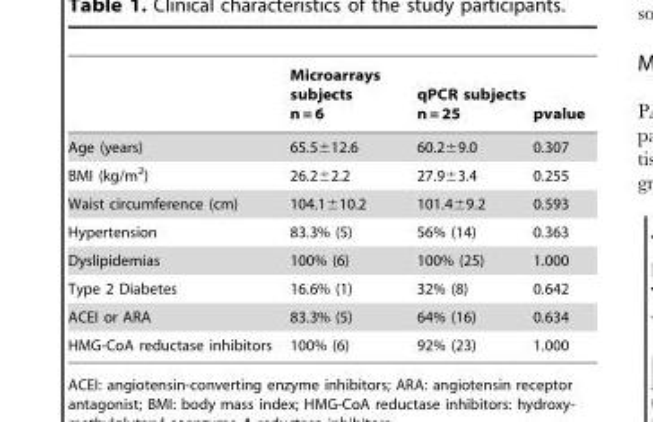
<table><thead><tr><td></td><td>Microarrays subjects n = 6</td><td>qPCR subjects n = 25</td><td>pvalue</td></tr></thead><tbody><tr><td>Age (years)</td><td>65.5±12.6</td><td>60.2±9.0</td><td>0.307</td></tr><tr><td>BMI (kg/m<sup>2</sup>)</td><td>26.2±2.2</td><td>27.9±3.4</td><td>0.255</td></tr><tr><td>Waist circumference (cm)</td><td>104.1±10.2</td><td>101.4±9.2</td><td>0.593</td></tr><tr><td>Hypertension</td><td>83.3% (5)</td><td>56% (14)</td><td>0.363</td></tr><tr><td>Dyslipidemias</td><td>100% (6)</td><td>100% (25)</td><td>1.000</td></tr><tr><td>Type 2 Diabetes</td><td>16.6% (1)</td><td>32% (8)</td><td>0.642</td></tr><tr><td>ACEI or ARA</td><td>83.3% (5)</td><td>64% (16)</td><td>0.634</td></tr><tr><td>HMG-CoA reductase inhibitors</td><td>100% (6)</td><td>92% (23)</td><td>1.000</td></tr></tbody></table>